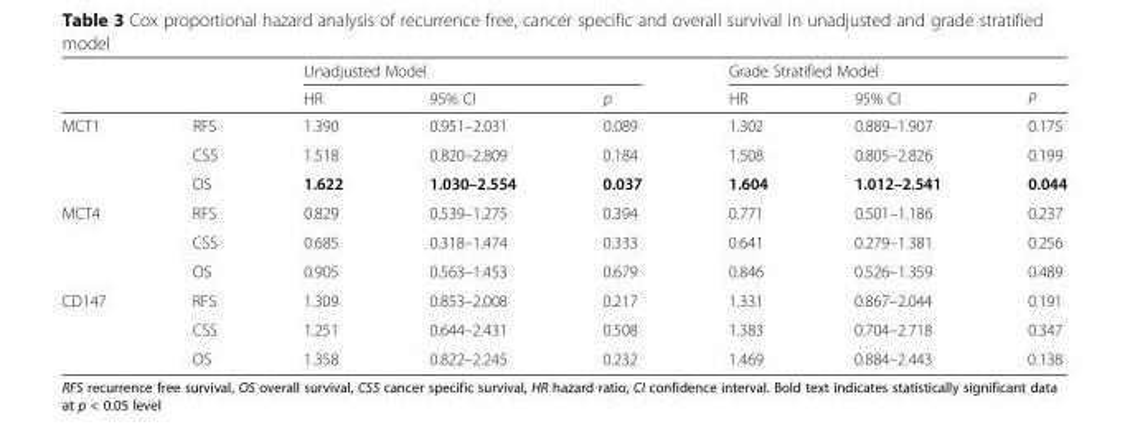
<table><thead><tr><td rowspan="2"></td><td rowspan="2"></td><td colspan="3">Unadjusted Model</td><td colspan="3">Grade Stratified Model</td></tr><tr><td>HR</td><td>95% CI</td><td>p</td><td>HR</td><td>95% CI</td><td>P</td></tr></thead><tbody><tr><td rowspan="3">MCT1</td><td>RFS</td><td>1.390</td><td>0.951–2.031</td><td>0.089</td><td>1.302</td><td>0.889–1.907</td><td>0.175</td></tr><tr><td>CSS</td><td>1.518</td><td>0.820–2.809</td><td>0.184</td><td>1.508</td><td>0.805–2.826</td><td>0.199</td></tr><tr><td>OS</td><td>1.622</td><td>1.030–2.554</td><td>0.037</td><td>1.604</td><td>1.012–2.541</td><td>0.044</td></tr><tr><td rowspan="3">MCT4</td><td>RFS</td><td>0.829</td><td>0.539–1.275</td><td>0.394</td><td>0.771</td><td>0.501–1.186</td><td>0.237</td></tr><tr><td>CSS</td><td>0.685</td><td>0.318–1.474</td><td>0.333</td><td>0.641</td><td>0.279–1.381</td><td>0.256</td></tr><tr><td>OS</td><td>0.905</td><td>0.563–1.453</td><td>0.679</td><td>0.846</td><td>0.526–1.359</td><td>0.489</td></tr><tr><td rowspan="3">CD147</td><td>RFS</td><td>1.309</td><td>0.853–2.008</td><td>0.217</td><td>1.331</td><td>0.867–2.044</td><td>0.191</td></tr><tr><td>CSS</td><td>1.251</td><td>0.644–2.431</td><td>0.508</td><td>1.383</td><td>0.704–2.718</td><td>0.347</td></tr><tr><td>OS</td><td>1.358</td><td>0.822–2.245</td><td>0.232</td><td>1.469</td><td>0.884–2.443</td><td>0.138</td></tr></tbody></table>